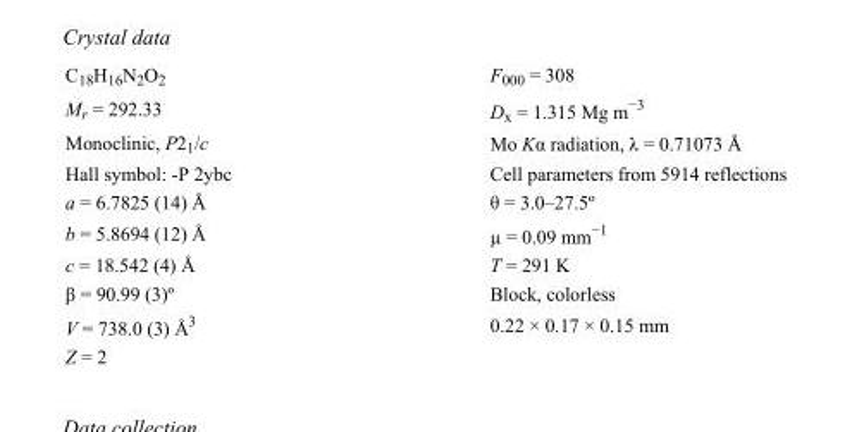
<table><tbody><tr><td>C<sub>18</sub>H<sub>16</sub>N<sub>2</sub>O<sub>2</sub></td><td>F000 = 308</td></tr><tr><td>M<sub>r</sub> = 292.33</td><td>D<sub>x</sub> = 1.315 Mg m<sup>−3</sup></td></tr><tr><td>Monoclinic, P2<sub>1</sub>/c</td><td>Mo Kα radiation, λ = 0.71073 Å</td></tr><tr><td>Hall symbol: -P 2ybc</td><td>Cell parameters from 5914 reflections</td></tr><tr><td>a = 6.7825 (14) Å</td><td>θ = 3.0–27.5º</td></tr><tr><td>b = 5.8694 (12) Å</td><td>µ = 0.09 mm<sup>−1</sup></td></tr><tr><td>c = 18.542 (4) Å</td><td>T = 291 K</td></tr><tr><td>β = 90.99 (3)º</td><td>Block, colorless</td></tr><tr><td>V = 738.0 (3) Å<sup>3</sup></td><td>0.22 × 0.17 × 0.15 mm</td></tr><tr><td>Z = 2</td><td></td></tr></tbody></table>